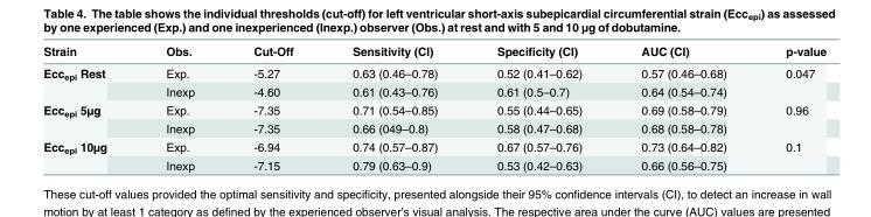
<table><thead><tr><td>Strain</td><td>Obs.</td><td>Cut-Off</td><td>Sensitivity (CI)</td><td>Specificity (CI)</td><td>AUC (CI)</td><td>p-value</td></tr></thead><tbody><tr><td rowspan="2">Ecc<sub>epi</sub> Rest</td><td>Exp.</td><td>-5.27</td><td>0.63 (0.46–0.78)</td><td>0.52 (0.41–0.62)</td><td>0.57 (0.46–0.68)</td><td rowspan="2">0.047</td></tr><tr><td>Inexp</td><td>-4.60</td><td>0.61 (0.43–0.76)</td><td>0.61 (0.5–0.7)</td><td>0.64 (0.54–0.74)</td></tr><tr><td rowspan="2">Ecc<sub>epi</sub> 5µg</td><td>Exp.</td><td>-7.35</td><td>0.71 (0.54–0.85)</td><td>0.55 (0.44–0.65)</td><td>0.69 (0.58–0.79)</td><td rowspan="2">0.96</td></tr><tr><td>Inexp</td><td>-7.35</td><td>0.66 (049–0.8)</td><td>0.58 (0.47–0.68)</td><td>0.68 (0.58–0.78)</td></tr><tr><td rowspan="2">Ecc<sub>epi</sub> 10µg</td><td>Exp.</td><td>-6.94</td><td>0.74 (0.57–0.87)</td><td>0.67 (0.57–0.76)</td><td>0.73 (0.64–0.82)</td><td rowspan="2">0.1</td></tr><tr><td>Inexp</td><td>-7.15</td><td>0.79 (0.63–0.9)</td><td>0.53 (0.42–0.63)</td><td>0.66 (0.56–0.75)</td></tr></tbody></table>